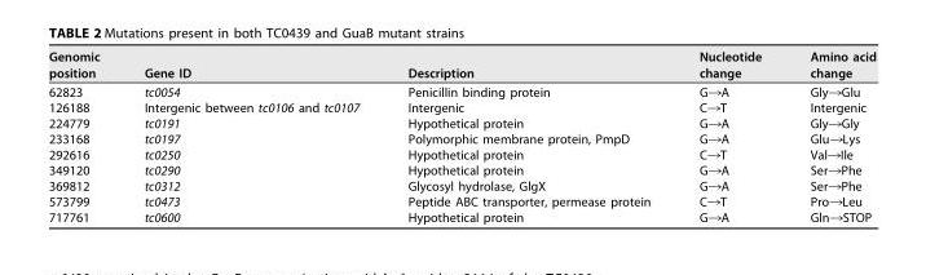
<table><thead><tr><td>Genomic position</td><td>Gene ID</td><td>Description</td><td>Nucleotide change</td><td>Amino acid change</td></tr></thead><tbody><tr><td>62823</td><td>tc0054</td><td>Penicillin binding protein</td><td>G→A</td><td>Gly→Glu</td></tr><tr><td>126188</td><td>Intergenic between tc0106 and tc0107</td><td>Intergenic</td><td>C→T</td><td>Intergenic</td></tr><tr><td>224779</td><td>tc0191</td><td>Hypothetical protein</td><td>G→A</td><td>Gly→Gly</td></tr><tr><td>233168</td><td>tc0197</td><td>Polymorphic membrane protein, PmpD</td><td>G→A</td><td>Glu→Lys</td></tr><tr><td>292616</td><td>tc0250</td><td>Hypothetical protein</td><td>C→T</td><td>Val→Ile</td></tr><tr><td>349120</td><td>tc0290</td><td>Hypothetical protein</td><td>G→A</td><td>Ser→Phe</td></tr><tr><td>369812</td><td>tc0312</td><td>Glycosyl hydrolase, GlgX</td><td>G→A</td><td>Ser→Phe</td></tr><tr><td>573799</td><td>tc0473</td><td>Peptide ABC transporter, permease protein</td><td>C→T</td><td>Pro→Leu</td></tr><tr><td>717761</td><td>tc0600</td><td>Hypothetical protein</td><td>G→A</td><td>Gln→STOP</td></tr></tbody></table>